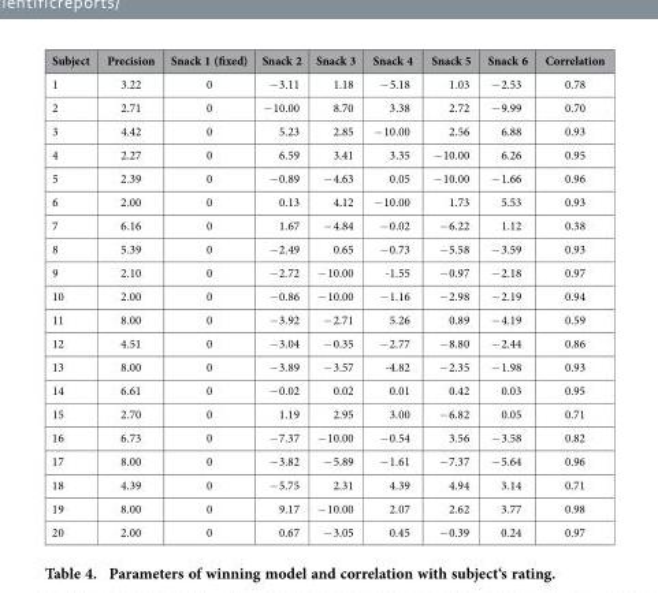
<table><thead><tr><td>Subject</td><td>Precision</td><td>Snack 1 (fixed)</td><td>Snack 2</td><td>Snack 3</td><td>Snack 4</td><td>Snack 5</td><td>Snack 6</td><td>Correlation</td></tr></thead><tbody><tr><td>1</td><td>3.22</td><td>0</td><td>− 3.11</td><td>1.18</td><td>− 5.18</td><td>1.03</td><td>− 2.53</td><td>0.78</td></tr><tr><td>2</td><td>2.71</td><td>0</td><td>− 10.00</td><td>8.70</td><td>3.38</td><td>2.72</td><td>− 9.99</td><td>0.70</td></tr><tr><td>3</td><td>4.42</td><td>0</td><td>5.23</td><td>2.85</td><td>− 10.00</td><td>2.56</td><td>6.88</td><td>0.93</td></tr><tr><td>4</td><td>2.27</td><td>0</td><td>6.59</td><td>3.41</td><td>3.35</td><td>− 10.00</td><td>6.26</td><td>0.95</td></tr><tr><td>5</td><td>2.39</td><td>0</td><td>− 0.89</td><td>− 4.63</td><td>0.05</td><td>− 10.00</td><td>− 1.66</td><td>0.96</td></tr><tr><td>6</td><td>2.00</td><td>0</td><td>0.13</td><td>4.12</td><td>− 10.00</td><td>1.73</td><td>5.53</td><td>0.93</td></tr><tr><td>7</td><td>6.16</td><td>0</td><td>1.67</td><td>− 4.84</td><td>− 0.02</td><td>− 6.22</td><td>1.12</td><td>0.38</td></tr><tr><td>8</td><td>5.39</td><td>0</td><td>− 2.49</td><td>0.65</td><td>− 0.73</td><td>− 5.58</td><td>− 3.59</td><td>0.93</td></tr><tr><td>9</td><td>2.10</td><td>0</td><td>− 2.72</td><td>− 10.00</td><td>-1.55</td><td>− 0.97</td><td>− 2.18</td><td>0.97</td></tr><tr><td>10</td><td>2.00</td><td>0</td><td>− 0.86</td><td>− 10.00</td><td>− 1.16</td><td>− 2.98</td><td>− 2.19</td><td>0.94</td></tr><tr><td>11</td><td>8.00</td><td>0</td><td>− 3.92</td><td>− 2.71</td><td>5.26</td><td>0.89</td><td>− 4.19</td><td>0.59</td></tr><tr><td>12</td><td>4.51</td><td>0</td><td>− 3.04</td><td>− 0.35</td><td>− 2.77</td><td>− 8.80</td><td>− 2.44</td><td>0.86</td></tr><tr><td>13</td><td>8.00</td><td>0</td><td>− 3.89</td><td>− 3.57</td><td>-4.82</td><td>− 2.35</td><td>− 1.98</td><td>0.93</td></tr><tr><td>14</td><td>6.61</td><td>0</td><td>− 0.02</td><td>0.02</td><td>0.01</td><td>0.42</td><td>0.03</td><td>0.95</td></tr><tr><td>15</td><td>2.70</td><td>0</td><td>1.19</td><td>2.95</td><td>3.00</td><td>− 6.82</td><td>0.05</td><td>0.71</td></tr><tr><td>16</td><td>6.73</td><td>0</td><td>− 7.37</td><td>− 10.00</td><td>− 0.54</td><td>3.56</td><td>− 3.58</td><td>0.82</td></tr><tr><td>17</td><td>8.00</td><td>0</td><td>− 3.82</td><td>− 5.89</td><td>− 1.61</td><td>− 7.37</td><td>− 5.64</td><td>0.96</td></tr><tr><td>18</td><td>4.39</td><td>0</td><td>− 5.75</td><td>2.31</td><td>4.39</td><td>4.94</td><td>3.14</td><td>0.71</td></tr><tr><td>19</td><td>8.00</td><td>0</td><td>9.17</td><td>− 10.00</td><td>2.07</td><td>2.62</td><td>3.77</td><td>0.98</td></tr><tr><td>20</td><td>2.00</td><td>0</td><td>0.67</td><td>− 3.05</td><td>0.45</td><td>− 0.39</td><td>0.24</td><td>0.97</td></tr></tbody></table>